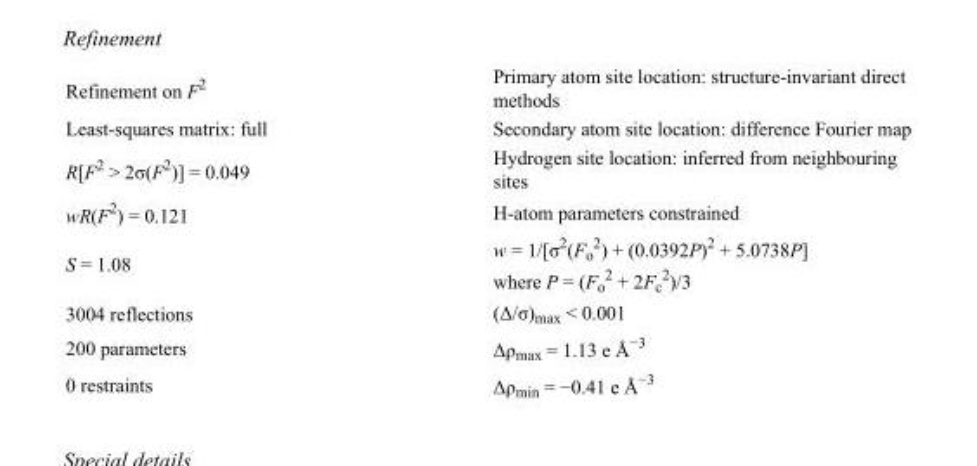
<table><tbody><tr><td>Refinement on F<sup>2</sup></td><td>Primary atom site location: structure-invariant direct methods</td></tr><tr><td>Least-squares matrix: full</td><td>Secondary atom site location: difference Fourier map</td></tr><tr><td>R[F<sup>2</sup> &gt; 2σ(F<sup>2</sup>)] = 0.049</td><td>Hydrogen site location: inferred from neighbouring sites</td></tr><tr><td>wR(F<sup>2</sup>) = 0.121</td><td>H-atom parameters constrained</td></tr><tr><td>S = 1.08</td><td>w = 1/[σ<sup>2</sup>(F<sub>o</sub> <sup>2</sup>) + (0.0392P)<sup>2</sup> + 5.0738P] where P = (F<sub>o</sub> <sup>2</sup> + 2F<sub>c</sub> <sup>2</sup>)/3</td></tr><tr><td>3004 reflections</td><td>(Δ/σ)<sub>max</sub> &lt; 0.001</td></tr><tr><td>200 parameters</td><td>Δρ<sub>max</sub> = 1.13 e Å<sup>−3</sup></td></tr><tr><td>0 restraints</td><td>Δρ<sub>min</sub> = −0.41 e Å<sup>−3</sup></td></tr></tbody></table>